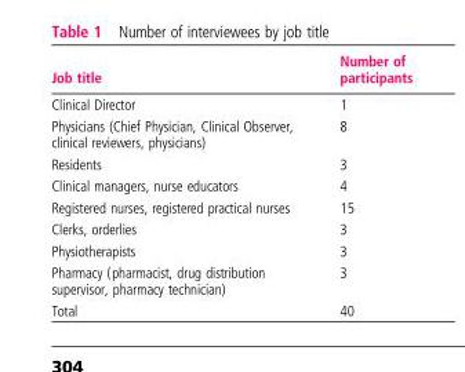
<table><thead><tr><td>Job title</td><td>Number of participants</td></tr></thead><tbody><tr><td>Clinical Director</td><td>1</td></tr><tr><td>Physicians (Chief Physician, Clinical Observer, clinical reviewers, physicians)</td><td>8</td></tr><tr><td>Residents</td><td>3</td></tr><tr><td>Clinical managers, nurse educators</td><td>4</td></tr><tr><td>Registered nurses, registered practical nurses</td><td>15</td></tr><tr><td>Clerks, orderlies</td><td>3</td></tr><tr><td>Physiotherapists</td><td>3</td></tr><tr><td>Pharmacy (pharmacist, drug distribution supervisor, pharmacy technician)</td><td>3</td></tr><tr><td>Total</td><td>40</td></tr></tbody></table>